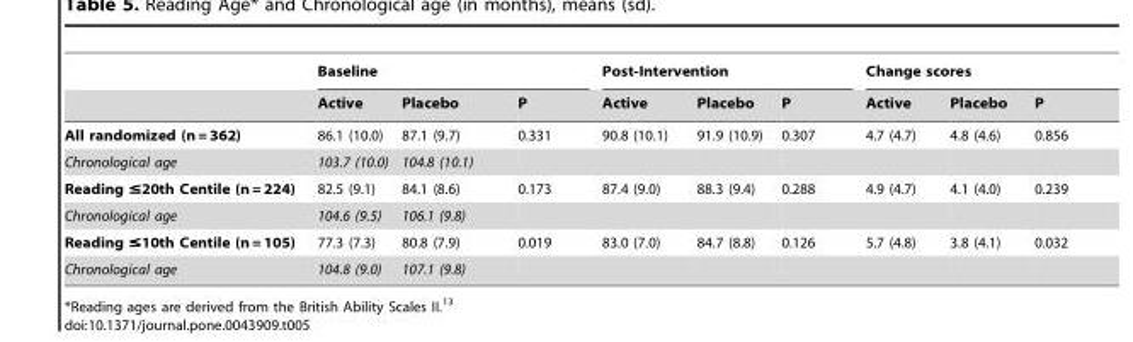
<table><thead><tr><td rowspan="2"></td><td colspan="3">Baseline</td><td colspan="3">Post-Intervention</td><td colspan="3">Change scores</td></tr><tr><td>Active</td><td>Placebo</td><td>P</td><td>Active</td><td>Placebo</td><td>P</td><td>Active</td><td>Placebo</td><td>P</td></tr></thead><tbody><tr><td>All randomized (n = 362)</td><td>86.1 (10.0)</td><td>87.1 (9.7)</td><td>0.331</td><td>90.8 (10.1)</td><td>91.9 (10.9)</td><td>0.307</td><td>4.7 (4.7)</td><td>4.8 (4.6)</td><td>0.856</td></tr><tr><td>Chronological age</td><td>103.7 (10.0)</td><td>104.8 (10.1)</td><td></td><td></td><td></td><td></td><td></td><td></td><td></td></tr><tr><td>Reading ≤20th Centile (n = 224)</td><td>82.5 (9.1)</td><td>84.1 (8.6)</td><td>0.173</td><td>87.4 (9.0)</td><td>88.3 (9.4)</td><td>0.288</td><td>4.9 (4.7)</td><td>4.1 (4.0)</td><td>0.239</td></tr><tr><td>Chronological age</td><td>104.6 (9.5)</td><td>106.1 (9.8)</td><td></td><td></td><td></td><td></td><td></td><td></td><td></td></tr><tr><td>Reading ≤10th Centile (n = 105)</td><td>77.3 (7.3)</td><td>80.8 (7.9)</td><td>0.019</td><td>83.0 (7.0)</td><td>84.7 (8.8)</td><td>0.126</td><td>5.7 (4.8)</td><td>3.8 (4.1)</td><td>0.032</td></tr><tr><td>Chronological age</td><td>104.8 (9.0)</td><td>107.1 (9.8)</td><td></td><td></td><td></td><td></td><td></td><td></td><td></td></tr></tbody></table>